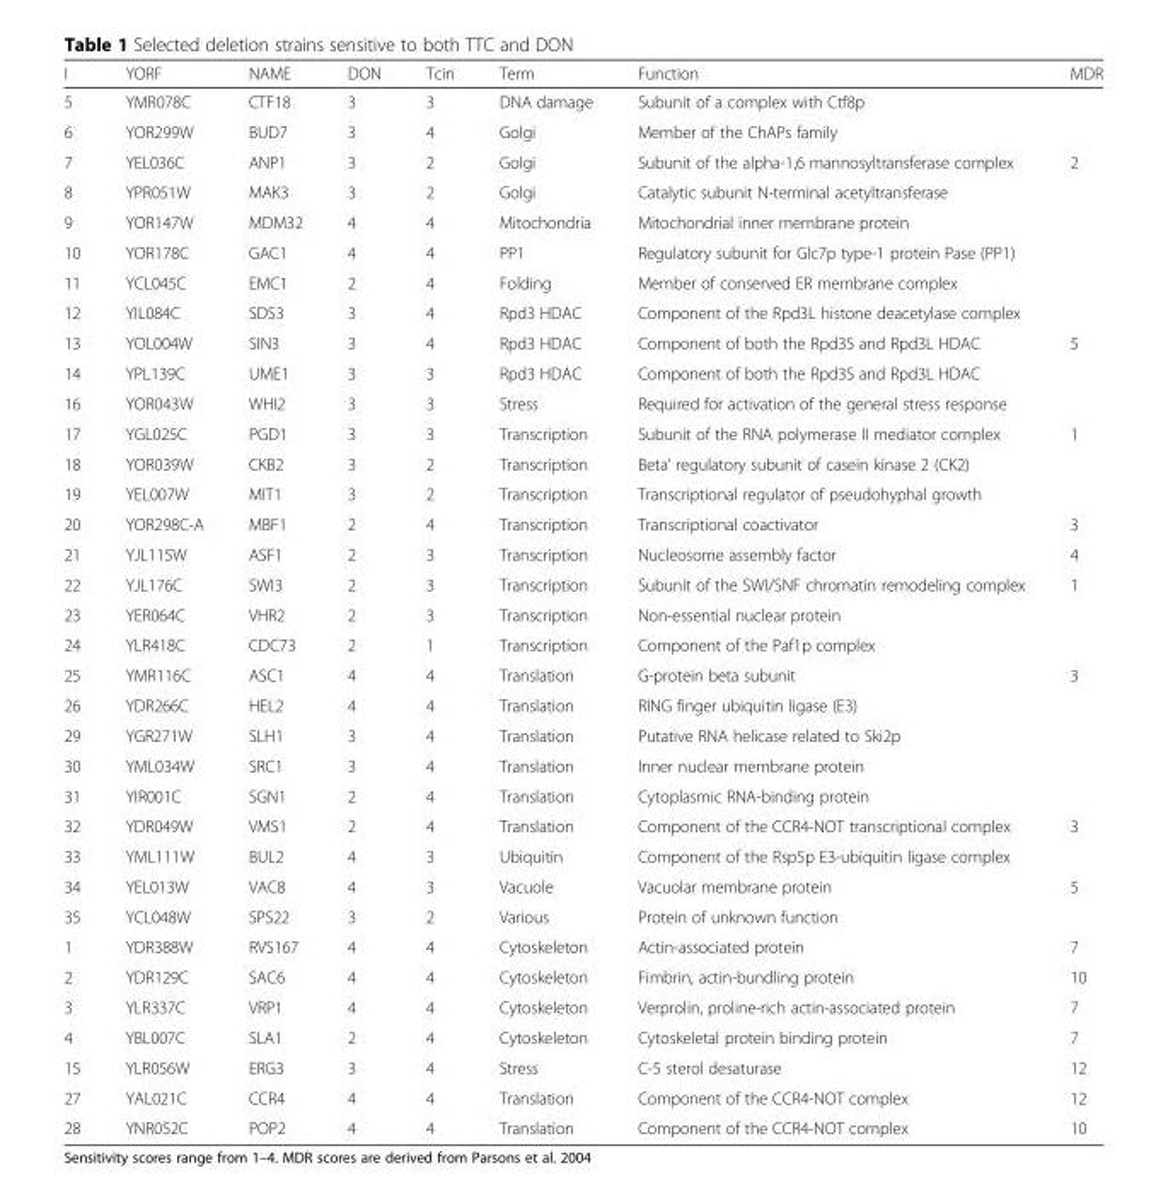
<table><thead><tr><td>I</td><td>YORF</td><td>NAME</td><td>DON</td><td>Tcin</td><td>Term</td><td>Function</td><td>MDR</td></tr></thead><tbody><tr><td>5</td><td>YMR078C</td><td>CTF18</td><td>3</td><td>3</td><td>DNA damage</td><td>Subunit of a complex with Ctf8p</td><td></td></tr><tr><td>6</td><td>YOR299W</td><td>BUD7</td><td>3</td><td>4</td><td>Golgi</td><td>Member of the ChAPs family</td><td></td></tr><tr><td>7</td><td>YEL036C</td><td>ANP1</td><td>3</td><td>2</td><td>Golgi</td><td>Subunit of the alpha-1,6 mannosyltransferase complex</td><td>2</td></tr><tr><td>8</td><td>YPR051W</td><td>MAK3</td><td>3</td><td>2</td><td>Golgi</td><td>Catalytic subunit N-terminal acetyltransferase</td><td></td></tr><tr><td>9</td><td>YOR147W</td><td>MDM32</td><td>4</td><td>4</td><td>Mitochondria</td><td>Mitochondrial inner membrane protein</td><td></td></tr><tr><td>10</td><td>YOR178C</td><td>GAC1</td><td>4</td><td>4</td><td>PP1</td><td>Regulatory subunit for Glc7p type-1 protein Pase (PP1)</td><td></td></tr><tr><td>11</td><td>YCL045C</td><td>EMC1</td><td>2</td><td>4</td><td>Folding</td><td>Member of conserved ER membrane complex</td><td></td></tr><tr><td>12</td><td>YIL084C</td><td>SDS3</td><td>3</td><td>4</td><td>Rpd3 HDAC</td><td>Component of the Rpd3L histone deacetylase complex</td><td></td></tr><tr><td>13</td><td>YOL004W</td><td>SIN3</td><td>3</td><td>4</td><td>Rpd3 HDAC</td><td>Component of both the Rpd3S and Rpd3L HDAC</td><td>5</td></tr><tr><td>14</td><td>YPL139C</td><td>UME1</td><td>3</td><td>3</td><td>Rpd3 HDAC</td><td>Component of both the Rpd3S and Rpd3L HDAC</td><td></td></tr><tr><td>16</td><td>YOR043W</td><td>WHI2</td><td>3</td><td>3</td><td>Stress</td><td>Required for activation of the general stress response</td><td></td></tr><tr><td>17</td><td>YGL025C</td><td>PGD1</td><td>3</td><td>3</td><td>Transcription</td><td>Subunit of the RNA polymerase II mediator complex</td><td>1</td></tr><tr><td>18</td><td>YOR039W</td><td>CKB2</td><td>3</td><td>2</td><td>Transcription</td><td>Beta&#x27; regulatory subunit of casein kinase 2 (CK2)</td><td></td></tr><tr><td>19</td><td>YEL007W</td><td>MIT1</td><td>3</td><td>2</td><td>Transcription</td><td>Transcriptional regulator of pseudohyphal growth</td><td></td></tr><tr><td>20</td><td>YOR298C-A</td><td>MBF1</td><td>2</td><td>4</td><td>Transcription</td><td>Transcriptional coactivator</td><td>3</td></tr><tr><td>21</td><td>YJL115W</td><td>ASF1</td><td>2</td><td>3</td><td>Transcription</td><td>Nucleosome assembly factor</td><td>4</td></tr><tr><td>22</td><td>YJL176C</td><td>SWI3</td><td>2</td><td>3</td><td>Transcription</td><td>Subunit of the SWI/SNF chromatin remodeling complex</td><td>1</td></tr><tr><td>23</td><td>YER064C</td><td>VHR2</td><td>2</td><td>3</td><td>Transcription</td><td>Non-essential nuclear protein</td><td></td></tr><tr><td>24</td><td>YLR418C</td><td>CDC73</td><td>2</td><td>1</td><td>Transcription</td><td>Component of the Paf1p complex</td><td></td></tr><tr><td>25</td><td>YMR116C</td><td>ASC1</td><td>4</td><td>4</td><td>Translation</td><td>G-protein beta subunit</td><td>3</td></tr><tr><td>26</td><td>YDR266C</td><td>HEL2</td><td>4</td><td>4</td><td>Translation</td><td>RING finger ubiquitin ligase (E3)</td><td></td></tr><tr><td>29</td><td>YGR271W</td><td>SLH1</td><td>3</td><td>4</td><td>Translation</td><td>Putative RNA helicase related to Ski2p</td><td></td></tr><tr><td>30</td><td>YML034W</td><td>SRC1</td><td>3</td><td>4</td><td>Translation</td><td>Inner nuclear membrane protein</td><td></td></tr><tr><td>31</td><td>YIR001C</td><td>SGN1</td><td>2</td><td>4</td><td>Translation</td><td>Cytoplasmic RNA-binding protein</td><td></td></tr><tr><td>32</td><td>YDR049W</td><td>VMS1</td><td>2</td><td>4</td><td>Translation</td><td>Component of the CCR4-NOT transcriptional complex</td><td>3</td></tr><tr><td>33</td><td>YML111W</td><td>BUL2</td><td>4</td><td>3</td><td>Ubiquitin</td><td>Component of the Rsp5p E3-ubiquitin ligase complex</td><td></td></tr><tr><td>34</td><td>YEL013W</td><td>VAC8</td><td>4</td><td>3</td><td>Vacuole</td><td>Vacuolar membrane protein</td><td>5</td></tr><tr><td>35</td><td>YCL048W</td><td>SPS22</td><td>3</td><td>2</td><td>Various</td><td>Protein of unknown function</td><td></td></tr><tr><td>1</td><td>YDR388W</td><td>RVS167</td><td>4</td><td>4</td><td>Cytoskeleton</td><td>Actin-associated protein</td><td>7</td></tr><tr><td>2</td><td>YDR129C</td><td>SAC6</td><td>4</td><td>4</td><td>Cytoskeleton</td><td>Fimbrin, actin-bundling protein</td><td>10</td></tr><tr><td>3</td><td>YLR337C</td><td>VRP1</td><td>4</td><td>4</td><td>Cytoskeleton</td><td>Verprolin, proline-rich actin-associated protein</td><td>7</td></tr><tr><td>4</td><td>YBL007C</td><td>SLA1</td><td>2</td><td>4</td><td>Cytoskeleton</td><td>Cytoskeletal protein binding protein</td><td>7</td></tr><tr><td>15</td><td>YLR056W</td><td>ERG3</td><td>3</td><td>4</td><td>Stress</td><td>C-5 sterol desaturase</td><td>12</td></tr><tr><td>27</td><td>YAL021C</td><td>CCR4</td><td>4</td><td>4</td><td>Translation</td><td>Component of the CCR4-NOT complex</td><td>12</td></tr><tr><td>28</td><td>YNR052C</td><td>POP2</td><td>4</td><td>4</td><td>Translation</td><td>Component of the CCR4-NOT complex</td><td>10</td></tr></tbody></table>